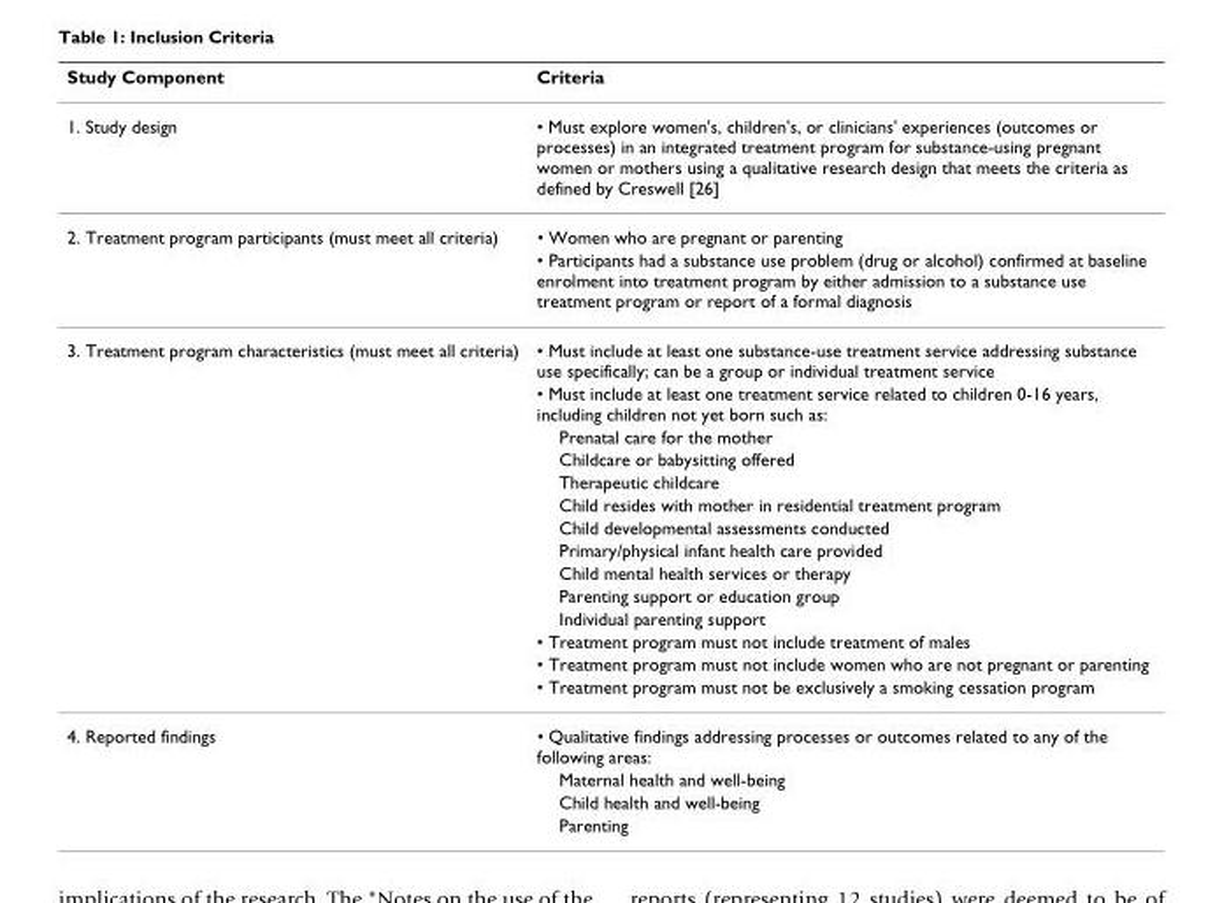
<table><thead><tr><td>Study Component</td><td>Criteria</td></tr></thead><tbody><tr><td>1. Study design</td><td>• Must explore women&#x27;s, children&#x27;s, or clinicians&#x27; experiences (outcomes or processes) in an integrated treatment program for substance-using pregnant women or mothers using a qualitative research design that meets the criteria as defined by Creswell [26]</td></tr><tr><td rowspan="2">2. Treatment program participants (must meet all criteria)</td><td>• Women who are pregnant or parenting</td></tr><tr><td>• Participants had a substance use problem (drug or alcohol) confirmed at baseline enrolment into treatment program by either admission to a substance use treatment program or report of a formal diagnosis</td></tr><tr><td rowspan="14">3. Treatment program characteristics (must meet all criteria)</td><td>• Must include at least one substance-use treatment service addressing substance use specifically; can be a group or individual treatment service</td></tr><tr><td>• Must include at least one treatment service related to children 0-16 years, including children not yet born such as:</td></tr><tr><td>Prenatal care for the mother</td></tr><tr><td>Childcare or babysitting offered</td></tr><tr><td>Therapeutic childcare</td></tr><tr><td>Child resides with mother in residential treatment program</td></tr><tr><td>Child developmental assessments conducted</td></tr><tr><td>Primary/physical infant health care provided</td></tr><tr><td>Child mental health services or therapy</td></tr><tr><td>Parenting support or education group</td></tr><tr><td>Individual parenting support</td></tr><tr><td>• Treatment program must not include treatment of males</td></tr><tr><td>• Treatment program must not include women who are not pregnant or parenting</td></tr><tr><td>• Treatment program must not be exclusively a smoking cessation program</td></tr><tr><td rowspan="4">4. Reported findings</td><td>• Qualitative findings addressing processes or outcomes related to any of the following areas:</td></tr><tr><td>Maternal health and well-being</td></tr><tr><td>Child health and well-being</td></tr><tr><td>Parenting</td></tr></tbody></table>